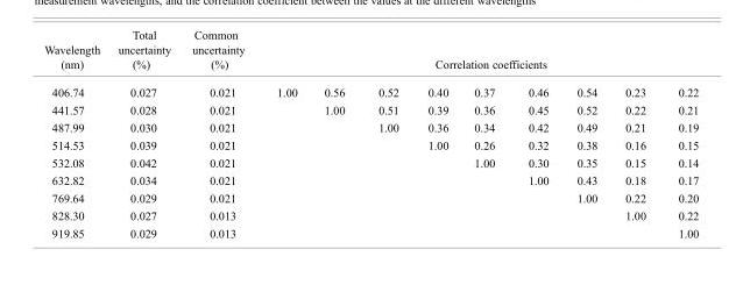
<table><thead><tr><td rowspan="2">Wavelength (nm) 406.74</td><td rowspan="2">uncertainty (%) 0.027</td><td rowspan="2">uncertainty (%) 0.021</td><td colspan="9">Correlation coefficients</td></tr><tr><td>1.00</td><td>0.56</td><td>0.52</td><td>0.40</td><td>0.37</td><td>0.46</td><td>0.54</td><td>0.23</td><td>0.22</td></tr></thead><tbody><tr><td>441.57</td><td>0.028</td><td>0.021</td><td></td><td>1.00</td><td>0.51</td><td>0.39</td><td>0.36</td><td>0.45</td><td>0.52</td><td>0.22</td><td>0.21</td></tr><tr><td>487.99</td><td>0.030</td><td>0.021</td><td></td><td></td><td>1.00</td><td>0.36</td><td>0.34</td><td>0.42</td><td>0.49</td><td>0.21</td><td>0.19</td></tr><tr><td>514.53</td><td>0.039</td><td>0.021</td><td></td><td></td><td></td><td>1.00</td><td>0.26</td><td>0.32</td><td>0.38</td><td>0.16</td><td>0.15</td></tr><tr><td>532.08</td><td>0.042</td><td>0.021</td><td></td><td></td><td></td><td></td><td>1.00</td><td>0.30</td><td>0.35</td><td>0.15</td><td>0.14</td></tr><tr><td>632.82</td><td>0.034</td><td>0.021</td><td></td><td></td><td></td><td></td><td></td><td>1.00</td><td>0.43</td><td>0.18</td><td>0.17</td></tr><tr><td>769.64</td><td>0.029</td><td>0.021</td><td></td><td></td><td></td><td></td><td></td><td></td><td>1.00</td><td>0.22</td><td>0.20</td></tr><tr><td>828.30</td><td>0.027</td><td>0.013</td><td></td><td></td><td></td><td></td><td></td><td></td><td></td><td>1.00</td><td>0.22</td></tr><tr><td>919.85</td><td>0.029</td><td>0.013</td><td></td><td></td><td></td><td></td><td></td><td></td><td></td><td></td><td>1.00</td></tr></tbody></table>